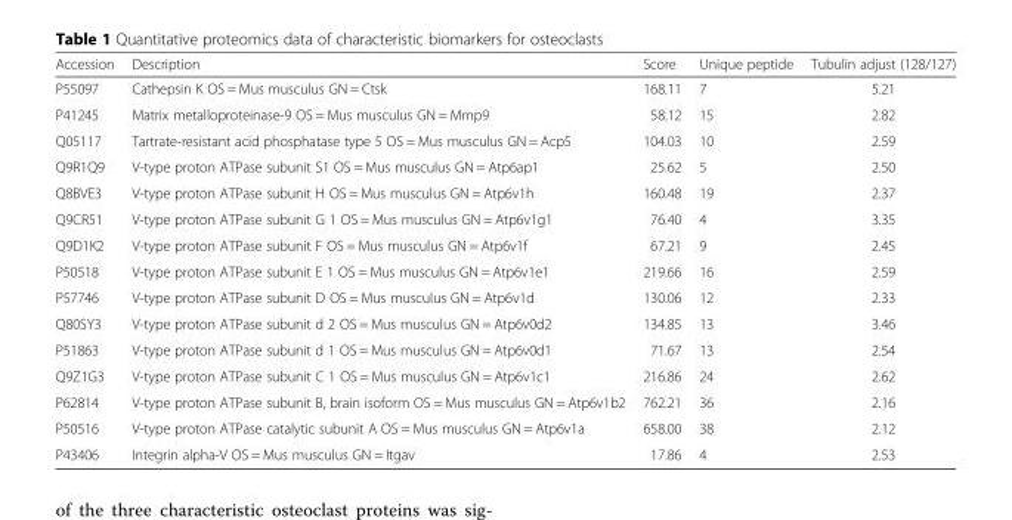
<table><thead><tr><td>Accession</td><td>Description</td><td>Score</td><td>Unique peptide</td><td>Tubulin adjust (128/127)</td></tr></thead><tbody><tr><td>P55097</td><td>Cathepsin K OS = Mus musculus GN = Ctsk</td><td>168.11</td><td>7</td><td>5.21</td></tr><tr><td>P41245</td><td>Matrix metalloproteinase-9 OS = Mus musculus GN = Mmp9</td><td>58.12</td><td>15</td><td>2.82</td></tr><tr><td>Q05117</td><td>Tartrate-resistant acid phosphatase type 5 OS = Mus musculus GN = Acp5</td><td>104.03</td><td>10</td><td>2.59</td></tr><tr><td>Q9R1Q9</td><td>V-type proton ATPase subunit S1 OS = Mus musculus GN = Atp6ap1</td><td>25.62</td><td>5</td><td>2.50</td></tr><tr><td>Q8BVE3</td><td>V-type proton ATPase subunit H OS = Mus musculus GN = Atp6v1h</td><td>160.48</td><td>19</td><td>2.37</td></tr><tr><td>Q9CR51</td><td>V-type proton ATPase subunit G 1 OS = Mus musculus GN = Atp6v1g1</td><td>76.40</td><td>4</td><td>3.35</td></tr><tr><td>Q9D1K2</td><td>V-type proton ATPase subunit F OS = Mus musculus GN = Atp6v1f</td><td>67.21</td><td>9</td><td>2.45</td></tr><tr><td>P50518</td><td>V-type proton ATPase subunit E 1 OS = Mus musculus GN = Atp6v1e1</td><td>219.66</td><td>16</td><td>2.59</td></tr><tr><td>P57746</td><td>V-type proton ATPase subunit D OS = Mus musculus GN = Atp6v1d</td><td>130.06</td><td>12</td><td>2.33</td></tr><tr><td>Q80SY3</td><td>V-type proton ATPase subunit d 2 OS = Mus musculus GN = Atp6v0d2</td><td>134.85</td><td>13</td><td>3.46</td></tr><tr><td>P51863</td><td>V-type proton ATPase subunit d 1 OS = Mus musculus GN = Atp6v0d1</td><td>71.67</td><td>13</td><td>2.54</td></tr><tr><td>Q9Z1G3</td><td>V-type proton ATPase subunit C 1 OS = Mus musculus GN = Atp6v1c1</td><td>216.86</td><td>24</td><td>2.62</td></tr><tr><td>P62814</td><td>V-type proton ATPase subunit B, brain isoform OS = Mus musculus GN = Atp6v1b2</td><td>762.21</td><td>36</td><td>2.16</td></tr><tr><td>P50516</td><td>V-type proton ATPase catalytic subunit A OS = Mus musculus GN = Atp6v1a</td><td>658.00</td><td>38</td><td>2.12</td></tr><tr><td>P43406</td><td>Integrin alpha-V OS = Mus musculus GN = Itgav</td><td>17.86</td><td>4</td><td>2.53</td></tr></tbody></table>